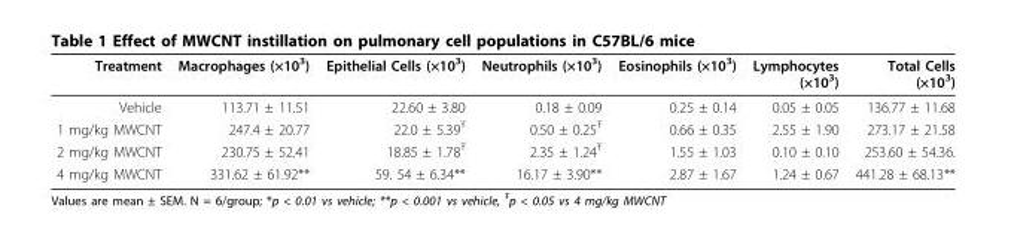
<table><thead><tr><td>Treatment</td><td>Macrophages (×10<sup>3</sup>)</td><td>Epithelial Cells (×10<sup>3</sup>)</td><td>Neutrophils (×10<sup>3</sup>)</td><td>Eosinophils (×10<sup>3</sup>)</td><td>Lymphocytes (×10<sup>3</sup>)</td><td>Total Cells (×10<sup>3</sup>)</td></tr></thead><tbody><tr><td>Vehicle</td><td>113.71 ± 11.51</td><td>22.60 ± 3.80</td><td>0.18 ± 0.09</td><td>0.25 ± 0.14</td><td>0.05 ± 0.05</td><td>136.77 ± 11.68</td></tr><tr><td>1 mg/kg MWCNT</td><td>247.4 ± 20.77</td><td>22.0 ± 5.39<sup>Ŧ</sup></td><td>0.50 ± 0.25<sup>Ŧ</sup></td><td>0.66 ± 0.35</td><td>2.55 ± 1.90</td><td>273.17 ± 21.58</td></tr><tr><td>2 mg/kg MWCNT</td><td>230.75 ± 52.41</td><td>18.85 ± 1.78<sup>Ŧ</sup></td><td>2.35 ± 1.24<sup>Ŧ</sup></td><td>1.55 ± 1.03</td><td>0.10 ± 0.10</td><td>253.60 ± 54.36.</td></tr><tr><td>4 mg/kg MWCNT</td><td>331.62 ± 61.92**</td><td>59. 54 ± 6.34**</td><td>16.17 ± 3.90**</td><td>2.87 ± 1.67</td><td>1.24 ± 0.67</td><td>441.28 ± 68.13**</td></tr></tbody></table>